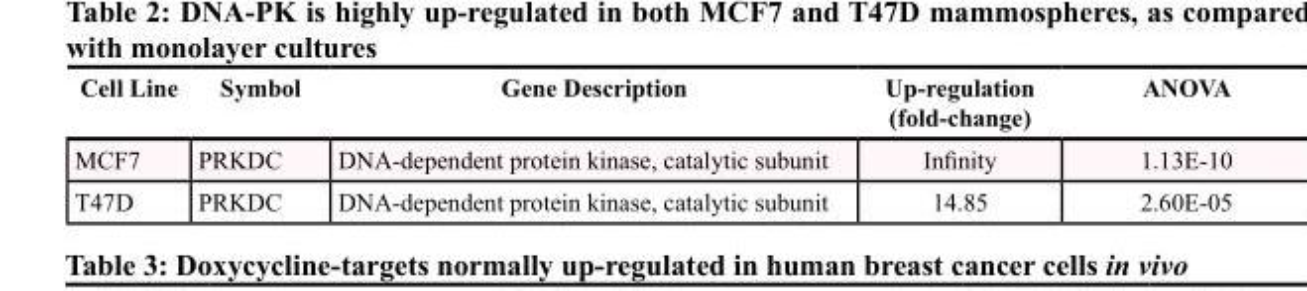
<table><thead><tr><td>Cell Line</td><td>Symbol</td><td>Gene Description</td><td>Up-regulation (fold-change)</td><td>ANOVA</td></tr></thead><tbody><tr><td>MCF7</td><td>PRKDC</td><td>DNA-dependent protein kinase, catalytic subunit</td><td>Infinity</td><td>1.13E-10</td></tr><tr><td>T47D</td><td>PRKDC</td><td>DNA-dependent protein kinase, catalytic subunit</td><td>14.85</td><td>2.60E-05</td></tr></tbody></table>